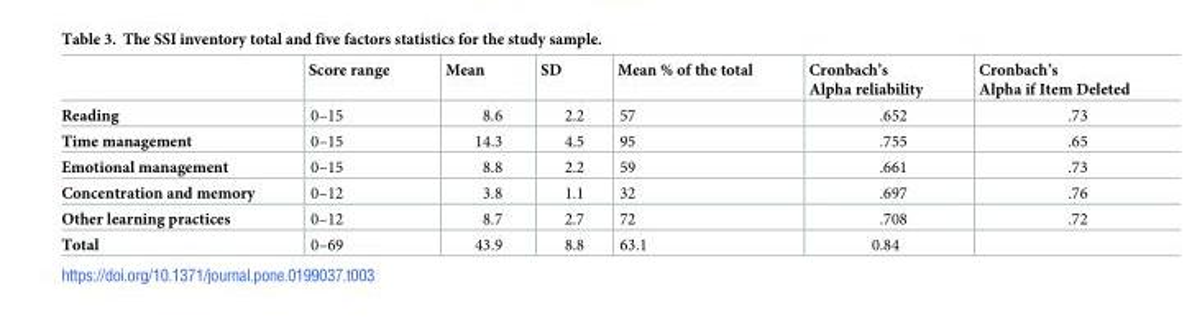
<table><thead><tr><td></td><td>Score range</td><td>Mean</td><td>SD</td><td>Mean % of the total</td><td>Cronbach’s Alpha reliability</td><td>Cronbach’s Alpha if Item Deleted</td></tr></thead><tbody><tr><td>Reading</td><td>0–15</td><td>8.6</td><td>2.2</td><td>57</td><td>.652</td><td>.73</td></tr><tr><td>Time management</td><td>0–15</td><td>14.3</td><td>4.5</td><td>95</td><td>.755</td><td>.65</td></tr><tr><td>Emotional management</td><td>0–15</td><td>8.8</td><td>2.2</td><td>59</td><td>.661</td><td>.73</td></tr><tr><td>Concentration and memory</td><td>0–12</td><td>3.8</td><td>1.1</td><td>32</td><td>.697</td><td>.76</td></tr><tr><td>Other learning practices</td><td>0–12</td><td>8.7</td><td>2.7</td><td>72</td><td>.708</td><td>.72</td></tr><tr><td>Total</td><td>0–69</td><td>43.9</td><td>8.8</td><td>63.1</td><td>0.84</td><td></td></tr></tbody></table>